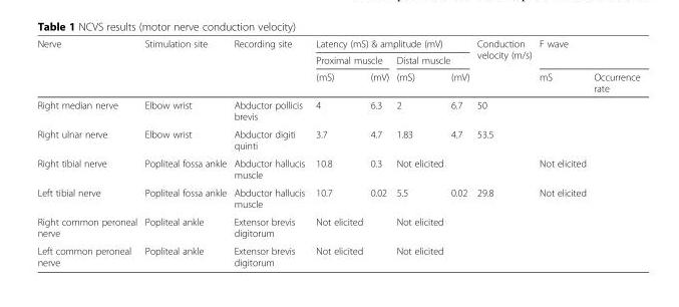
<table><thead><tr><td rowspan="3">Nerve</td><td rowspan="3">Stimulation site</td><td rowspan="3">Recording site</td><td colspan="4">Latency (mS) &amp; amplitude (mV)</td><td rowspan="3">Conduction velocity (m/s)</td><td rowspan="2" colspan="2">F wave</td></tr><tr><td colspan="2">Proximal muscle</td><td colspan="2">Distal muscle</td></tr><tr><td>(mS)</td><td>(mV)</td><td>(mS)</td><td>(mV)</td><td>mS</td><td>Occurrence rate</td></tr></thead><tbody><tr><td>Right median nerve</td><td>Elbow wrist</td><td>Abductor pollicis brevis</td><td>4</td><td>6.3</td><td>2</td><td>6.7</td><td>50</td><td rowspan="2"></td><td rowspan="6"></td></tr><tr><td>Right ulnar nerve</td><td>Elbow wrist</td><td>Abductor digiti quinti</td><td>3.7</td><td>4.7</td><td>1.83</td><td>4.7</td><td>53.5</td></tr><tr><td>Right tibial nerve</td><td>Popliteal fossa ankle</td><td>Abductor hallucis muscle</td><td>10.8</td><td>0.3</td><td>Not elicited</td><td></td><td></td><td>Not elicited</td></tr><tr><td>Left tibial nerve</td><td>Popliteal fossa ankle</td><td>Abductor hallucis muscle</td><td>10.7</td><td>0.02</td><td>5.5</td><td>0.02</td><td>29.8</td><td>Not elicited</td></tr><tr><td>Right common peroneal nerve</td><td>Popliteal ankle</td><td>Extensor brevis digitorum</td><td>Not elicited</td><td></td><td>Not elicited</td><td></td><td></td><td rowspan="2"></td></tr><tr><td>Left common peroneal nerve</td><td>Popliteal ankle</td><td>Extensor brevis digitorum</td><td>Not elicited</td><td></td><td>Not elicited</td><td></td><td></td></tr></tbody></table>